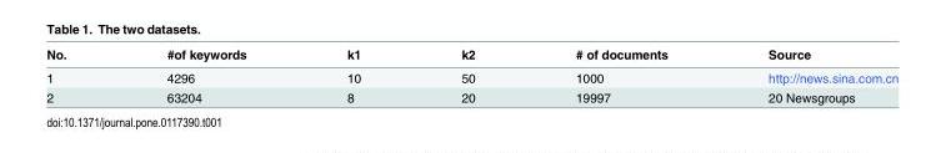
<table><thead><tr><td>No.</td><td>#of keywords</td><td>k1</td><td>k2</td><td># of documents</td><td>Source</td></tr></thead><tbody><tr><td>1</td><td>4296</td><td>10</td><td>50</td><td>1000</td><td>http://news.sina.com.cn</td></tr><tr><td>2</td><td>63204</td><td>8</td><td>20</td><td>19997</td><td>20 Newsgroups</td></tr></tbody></table>